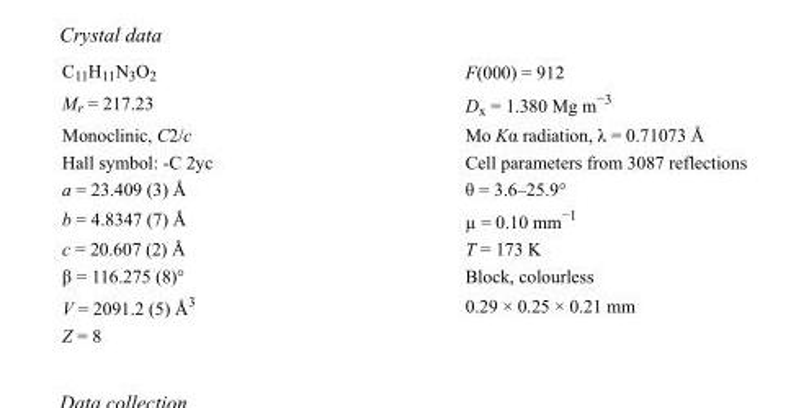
<table><tbody><tr><td>C<sub>11</sub>H<sub>11</sub>N<sub>3</sub>O<sub>2</sub></td><td>F(000) = 912</td></tr><tr><td>M<sub>r</sub> = 217.23</td><td>D<sub>x</sub> = 1.380 Mg m<sup>−3</sup></td></tr><tr><td>Monoclinic, C2/c</td><td>Mo Kα radiation, λ = 0.71073 Å</td></tr><tr><td>Hall symbol: -C 2yc</td><td>Cell parameters from 3087 reflections</td></tr><tr><td>a = 23.409 (3) Å</td><td>θ = 3.6–25.9°</td></tr><tr><td>b = 4.8347 (7) Å</td><td>µ = 0.10 mm<sup>−1</sup></td></tr><tr><td>c = 20.607 (2) Å</td><td>T = 173 K</td></tr><tr><td>β = 116.275 (8)°</td><td>Block, colourless</td></tr><tr><td>V = 2091.2 (5) Å<sup>3</sup></td><td>0.29 × 0.25 × 0.21 mm</td></tr><tr><td>Z = 8</td><td></td></tr></tbody></table>